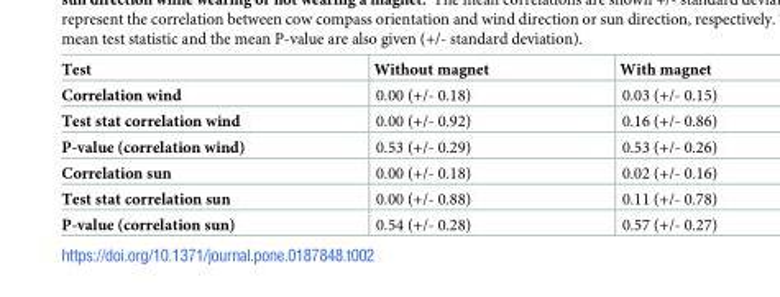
<table><thead><tr><td>Test</td><td>Without magnet</td><td>With magnet</td></tr></thead><tbody><tr><td>Correlation wind</td><td>0.00 (+/- 0.18)</td><td>0.03 (+/- 0.15)</td></tr><tr><td>Test stat correlation wind</td><td>0.00 (+/- 0.92)</td><td>0.16 (+/- 0.86)</td></tr><tr><td>P-value (correlation wind)</td><td>0.53 (+/- 0.29)</td><td>0.53 (+/- 0.26)</td></tr><tr><td>Correlation sun</td><td>0.00 (+/- 0.18)</td><td>0.02 (+/- 0.16)</td></tr><tr><td>Test stat correlation sun</td><td>0.00 (+/- 0.88)</td><td>0.11 (+/- 0.78)</td></tr><tr><td>P-value (correlation sun)</td><td>0.54 (+/- 0.28)</td><td>0.57 (+/- 0.27)</td></tr></tbody></table>